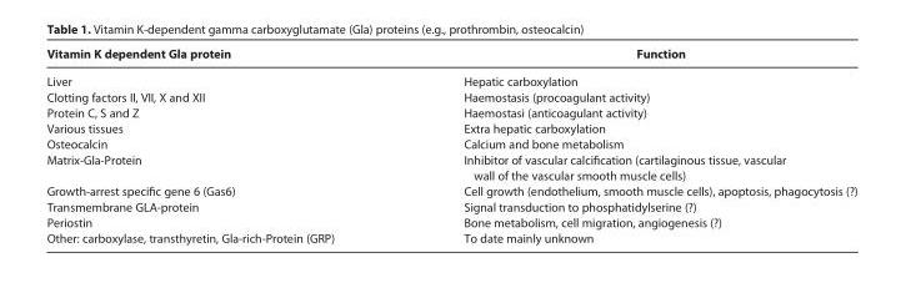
<table><thead><tr><td>Vitamin K dependent Gla protein</td><td>Function</td></tr></thead><tbody><tr><td>Liver</td><td>Hepatic carboxylation</td></tr><tr><td>Clotting factors II, VII, X and XII</td><td>Haemostasis (procoagulant activity)</td></tr><tr><td>Protein C, S and Z</td><td>Haemostasi (anticoagulant activity)</td></tr><tr><td>Various tissues</td><td>Extra hepatic carboxylation</td></tr><tr><td>Osteocalcin</td><td>Calcium and bone metabolism</td></tr><tr><td>Matrix-Gla-Protein</td><td>Inhibitor of vascular calcification (cartilaginous tissue, vascular wall of the vascular smooth muscle cells)</td></tr><tr><td>Growth-arrest specific gene 6 (Gas6)</td><td>Cell growth (endothelium, smooth muscle cells), apoptosis, phagocytosis (?)</td></tr><tr><td>Transmembrane GLA-protein</td><td>Signal transduction to phosphatidylserine (?)</td></tr><tr><td>Periostin</td><td>Bone metabolism, cell migration, angiogenesis (?)</td></tr><tr><td>Other: carboxylase, transthyretin, Gla-rich-Protein (GRP)</td><td>To date mainly unknown</td></tr></tbody></table>